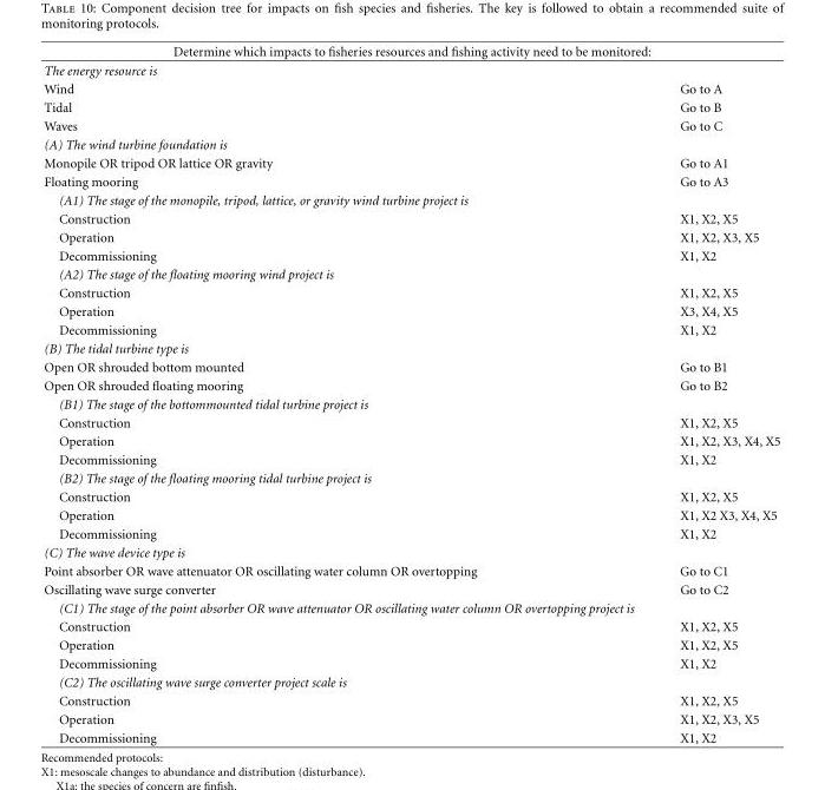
<table><thead><tr><td colspan="2">Determine which impacts to fisheries resources and fishing activity need to be monitored:</td></tr><tr><td>The energy resource is</td><td></td></tr></thead><tbody><tr><td>Wind</td><td>Go to A</td></tr><tr><td>Tidal</td><td>Go to B</td></tr><tr><td>Waves</td><td>Go to C</td></tr><tr><td colspan="2">(A) The wind turbine foundation is</td></tr><tr><td>Monopile OR tripod OR lattice OR gravity</td><td>Go to A1</td></tr><tr><td>Floating mooring</td><td>Go to A3</td></tr><tr><td colspan="2">(A1) The stage of the monopile, tripod, lattice, or gravity wind turbine project is</td></tr><tr><td>Construction</td><td>X1, X2, X5</td></tr><tr><td>Operation</td><td>X1, X2, X3, X5</td></tr><tr><td>Decommissioning</td><td>X1, X2</td></tr><tr><td colspan="2">(A2) The stage of the floating mooring wind project is</td></tr><tr><td>Construction</td><td>X1, X2, X5</td></tr><tr><td>Operation</td><td>X3, X4, X5</td></tr><tr><td>Decommissioning</td><td>X1, X2</td></tr><tr><td colspan="2">(B) The tidal turbine type is</td></tr><tr><td>Open OR shrouded bottom mounted</td><td>Go to B1</td></tr><tr><td>Open OR shrouded floating mooring</td><td>Go to B2</td></tr><tr><td colspan="2">(B1) The stage of the bottommounted tidal turbine project is</td></tr><tr><td>Construction</td><td>X1, X2, X5</td></tr><tr><td>Operation</td><td>X1, X2, X3, X4, X5</td></tr><tr><td>Decommissioning</td><td>X1, X2</td></tr><tr><td colspan="2">(B2) The stage of the floating mooring tidal turbine project is</td></tr><tr><td>Construction</td><td>X1, X2, X5</td></tr><tr><td>Operation</td><td>X1, X2 X3, X4, X5</td></tr><tr><td>Decommissioning</td><td>X1, X2</td></tr><tr><td colspan="2">(C) The wave device type is</td></tr><tr><td>Point absorber OR wave attenuator OR oscillating water column OR overtopping</td><td>Go to C1</td></tr><tr><td>Oscillating wave surge converter</td><td>Go to C2</td></tr><tr><td colspan="2">(C1) The stage of the point absorber OR wave attenuator OR oscillating water column OR overtopping project is</td></tr><tr><td>Construction</td><td>X1, X2, X5</td></tr><tr><td>Operation</td><td>X1, X2, X5</td></tr><tr><td>Decommissioning</td><td>X1, X2</td></tr><tr><td colspan="2">(C2) The oscillating wave surge converter project scale is</td></tr><tr><td>Construction</td><td>X1, X2, X5</td></tr><tr><td>Operation</td><td>X1, X2, X3, X5</td></tr><tr><td>Decommissioning</td><td>X1, X2</td></tr></tbody></table>